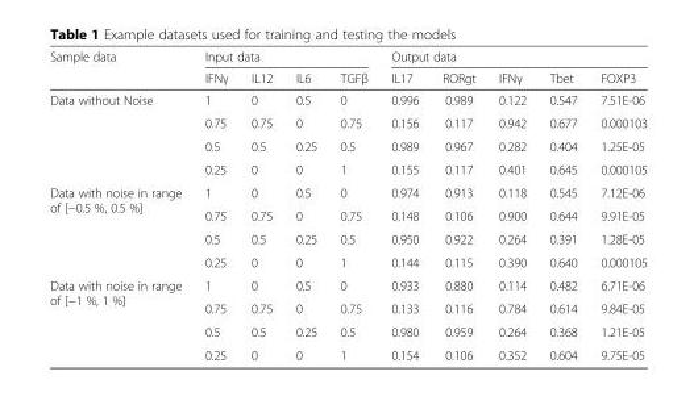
<table><thead><tr><td rowspan="2">Sample data</td><td colspan="4">Input data</td><td colspan="5">Output data</td></tr><tr><td>IFNγ</td><td>IL12</td><td>IL6</td><td>TGFβ</td><td>IL17</td><td>RORgt</td><td>IFNγ</td><td>Tbet</td><td>FOXP3</td></tr></thead><tbody><tr><td rowspan="4">Data without Noise</td><td>1</td><td>0</td><td>0.5</td><td>0</td><td>0.996</td><td>0.989</td><td>0.122</td><td>0.547</td><td>7.51E-06</td></tr><tr><td>0.75</td><td>0.75</td><td>0</td><td>0.75</td><td>0.156</td><td>0.117</td><td>0.942</td><td>0.677</td><td>0.000103</td></tr><tr><td>0.5</td><td>0.5</td><td>0.25</td><td>0.5</td><td>0.989</td><td>0.967</td><td>0.282</td><td>0.404</td><td>1.25E-05</td></tr><tr><td>0.25</td><td>0</td><td>0</td><td>1</td><td>0.155</td><td>0.117</td><td>0.401</td><td>0.645</td><td>0.000105</td></tr><tr><td rowspan="4">Data with noise in range of [−0.5 %, 0.5 %]</td><td>1</td><td>0</td><td>0.5</td><td>0</td><td>0.974</td><td>0.913</td><td>0.118</td><td>0.545</td><td>7.12E-06</td></tr><tr><td>0.75</td><td>0.75</td><td>0</td><td>0.75</td><td>0.148</td><td>0.106</td><td>0.900</td><td>0.644</td><td>9.91E-05</td></tr><tr><td>0.5</td><td>0.5</td><td>0.25</td><td>0.5</td><td>0.950</td><td>0.922</td><td>0.264</td><td>0.391</td><td>1.28E-05</td></tr><tr><td>0.25</td><td>0</td><td>0</td><td>1</td><td>0.144</td><td>0.115</td><td>0.390</td><td>0.640</td><td>0.000105</td></tr><tr><td rowspan="4">Data with noise in range of [−1 %, 1 %]</td><td>1</td><td>0</td><td>0.5</td><td>0</td><td>0.933</td><td>0.880</td><td>0.114</td><td>0.482</td><td>6.71E-06</td></tr><tr><td>0.75</td><td>0.75</td><td>0</td><td>0.75</td><td>0.133</td><td>0.116</td><td>0.784</td><td>0.614</td><td>9.84E-05</td></tr><tr><td>0.5</td><td>0.5</td><td>0.25</td><td>0.5</td><td>0.980</td><td>0.959</td><td>0.264</td><td>0.368</td><td>1.21E-05</td></tr><tr><td>0.25</td><td>0</td><td>0</td><td>1</td><td>0.154</td><td>0.106</td><td>0.352</td><td>0.604</td><td>9.75E-05</td></tr></tbody></table>